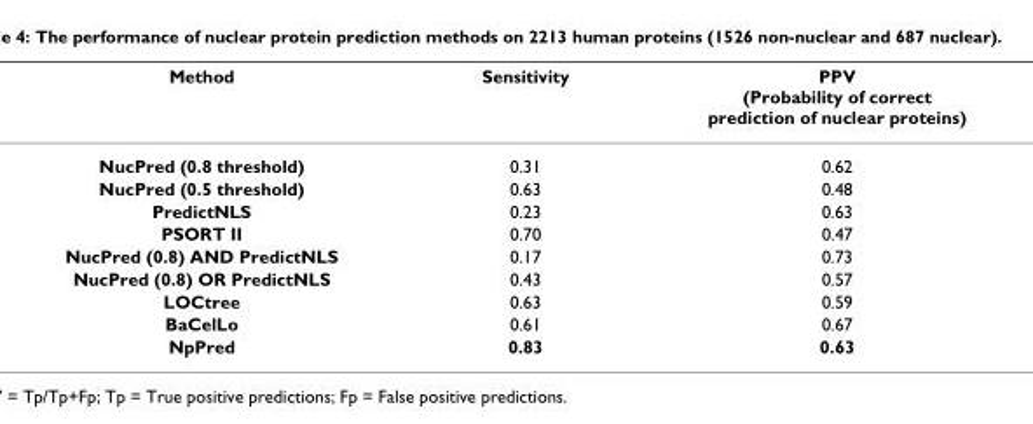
<table><thead><tr><td>Method</td><td>Sensitivity</td><td>PPV (Probability of correct prediction of nuclear proteins)</td></tr></thead><tbody><tr><td>NucPred (0.8 threshold)</td><td>0.31</td><td>0.62</td></tr><tr><td>NucPred (0.5 threshold)</td><td>0.63</td><td>0.48</td></tr><tr><td>PredictNLS</td><td>0.23</td><td>0.63</td></tr><tr><td>PSORT II</td><td>0.70</td><td>0.47</td></tr><tr><td>NucPred (0.8) AND PredictNLS</td><td>0.17</td><td>0.73</td></tr><tr><td>NucPred (0.8) OR PredictNLS</td><td>0.43</td><td>0.57</td></tr><tr><td>LOCtree</td><td>0.63</td><td>0.59</td></tr><tr><td>BaCelLo</td><td>0.61</td><td>0.67</td></tr><tr><td>NpPred</td><td>0.83</td><td>0.63</td></tr></tbody></table>